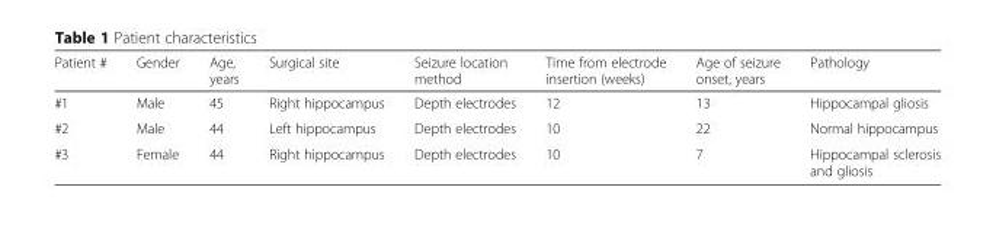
<table><thead><tr><td>Patient #</td><td>Gender</td><td>Age, years</td><td>Surgical site</td><td>Seizure location method</td><td>Time from electrode insertion (weeks)</td><td>Age of seizure onset, years</td><td>Pathology</td></tr></thead><tbody><tr><td>#1</td><td>Male</td><td>45</td><td>Right hippocampus</td><td>Depth electrodes</td><td>12</td><td>13</td><td>Hippocampal gliosis</td></tr><tr><td>#2</td><td>Male</td><td>44</td><td>Left hippocampus</td><td>Depth electrodes</td><td>10</td><td>22</td><td>Normal hippocampus</td></tr><tr><td>#3</td><td>Female</td><td>44</td><td>Right hippocampus</td><td>Depth electrodes</td><td>10</td><td>7</td><td>Hippocampal sclerosis and gliosis</td></tr></tbody></table>